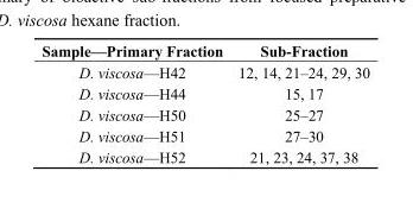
<table><thead><tr><td>Sample—Primary Fraction</td><td>Sub-Fraction</td></tr></thead><tbody><tr><td>D. viscosa—H42</td><td>12, 14, 21–24, 29, 30</td></tr><tr><td>D. viscosa—H44</td><td>15, 17</td></tr><tr><td>D. viscosa—H50</td><td>25–27</td></tr><tr><td>D. viscosa—H51</td><td>27–30</td></tr><tr><td>D. viscosa—H52</td><td>21, 23, 24, 37, 38</td></tr></tbody></table>